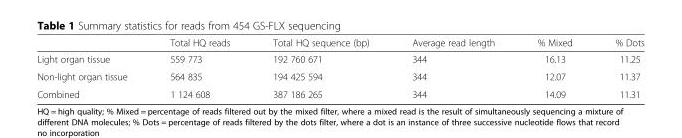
<table><thead><tr><td></td><td>Total HQ reads</td><td>Total HQ sequence (bp)</td><td>Average read length</td><td>% Mixed</td><td>% Dots</td></tr></thead><tbody><tr><td>Light organ tissue</td><td>559 773</td><td>192 760 671</td><td>344</td><td>16.13</td><td>11.25</td></tr><tr><td>Non-light organ tissue</td><td>564 835</td><td>194 425 594</td><td>344</td><td>12.07</td><td>11.37</td></tr><tr><td>Combined</td><td>1 124 608</td><td>387 186 265</td><td>344</td><td>14.09</td><td>11.31</td></tr></tbody></table>